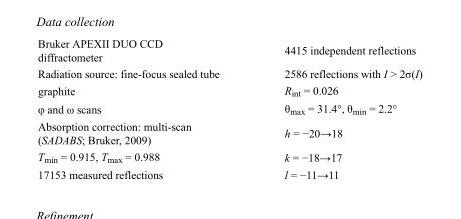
<table><tbody><tr><td>Bruker APEXII DUO CCD diffractometer</td><td>4415 independent reflections</td></tr><tr><td>Radiation source: fine-focus sealed tube</td><td>2586 reflections with I &gt; 2σ(I)</td></tr><tr><td>graphite</td><td>R<sub>int</sub> = 0.026</td></tr><tr><td>φ and ω scans</td><td>θ<sub>max</sub> = 31.4°, θ<sub>min</sub> = 2.2°</td></tr><tr><td>Absorption correction: multi-scan (SADABS; Bruker, 2009)</td><td>h = −20→18</td></tr><tr><td>T<sub>min</sub> = 0.915, T<sub>max</sub> = 0.988</td><td>k = −18→17</td></tr><tr><td>17153 measured reflections</td><td>l = −11→11</td></tr></tbody></table>